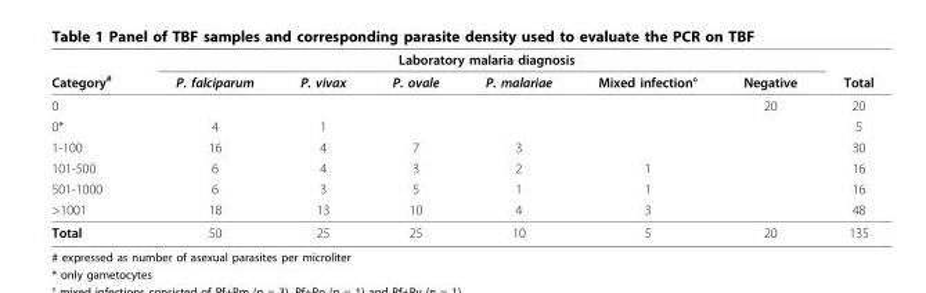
<table><thead><tr><td rowspan="2">Category<sup>#</sup></td><td colspan="6">Laboratory malaria diagnosis</td><td rowspan="2">Total</td></tr><tr><td>P. falciparum</td><td>P. vivax</td><td>P. ovale</td><td>P. malariae</td><td>Mixed infection°</td><td>Negative</td></tr></thead><tbody><tr><td>0</td><td></td><td></td><td></td><td></td><td></td><td>20</td><td>20</td></tr><tr><td>0*</td><td>4</td><td>1</td><td></td><td></td><td></td><td></td><td>5</td></tr><tr><td>1-100</td><td>16</td><td>4</td><td>7</td><td>3</td><td></td><td></td><td>30</td></tr><tr><td>101-500</td><td>6</td><td>4</td><td>3</td><td>2</td><td>1</td><td></td><td>16</td></tr><tr><td>501-1000</td><td>6</td><td>3</td><td>5</td><td>1</td><td>1</td><td></td><td>16</td></tr><tr><td>&gt;1001</td><td>18</td><td>13</td><td>10</td><td>4</td><td>3</td><td></td><td>48</td></tr><tr><td>Total</td><td>50</td><td>25</td><td>25</td><td>10</td><td>5</td><td>20</td><td>135</td></tr></tbody></table>